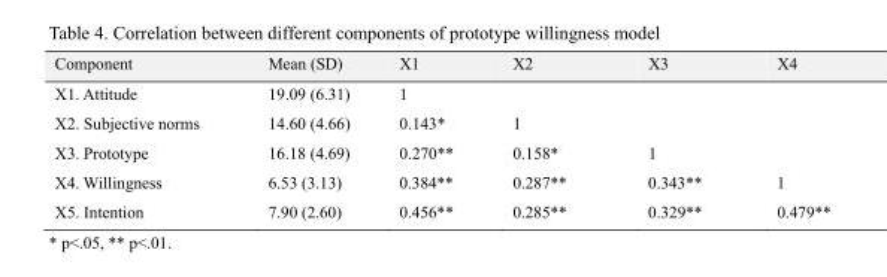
<table><thead><tr><td>Component</td><td>Mean (SD)</td><td>X1</td><td>X2</td><td>X3</td><td>X4</td></tr></thead><tbody><tr><td>X1. Attitude</td><td>19.09 (6.31)</td><td>1</td><td></td><td></td><td></td></tr><tr><td>X2. Subjective norms</td><td>14.60 (4.66)</td><td>0.143*</td><td>1</td><td></td><td></td></tr><tr><td>X3. Prototype</td><td>16.18 (4.69)</td><td>0.270**</td><td>0.158*</td><td>1</td><td></td></tr><tr><td>X4. Willingness</td><td>6.53 (3.13)</td><td>0.384**</td><td>0.287**</td><td>0.343**</td><td>1</td></tr><tr><td>X5. Intention</td><td>7.90 (2.60)</td><td>0.456**</td><td>0.285**</td><td>0.329**</td><td>0.479**</td></tr></tbody></table>